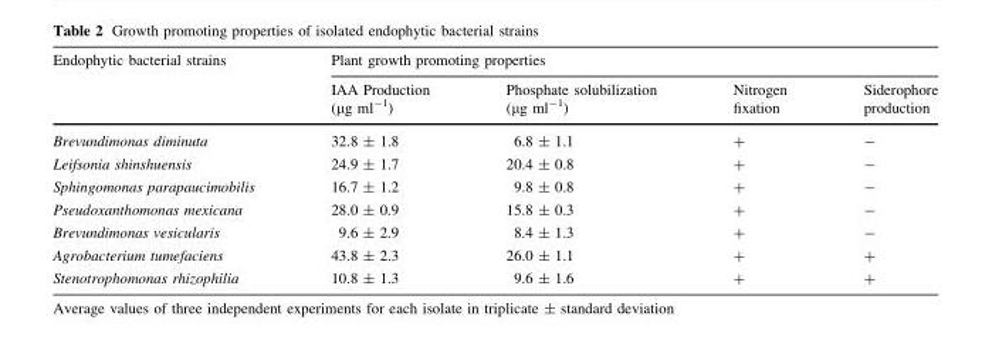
<table><thead><tr><td rowspan="2">Endophytic bacterial strains</td><td colspan="4">Plant growth promoting properties</td></tr><tr><td>IAA Production (µg ml<sup>-1</sup>)</td><td>Phosphate solubilization (µg ml<sup>-1</sup>)</td><td>Nitrogen fixation</td><td>Siderophore production</td></tr></thead><tbody><tr><td>Brevundimonas diminuta</td><td>32.8 ± 1.8</td><td>6.8 ± 1.1</td><td>+</td><td>-</td></tr><tr><td>Leifsonia shinshuensis</td><td>24.9 ± 1.7</td><td>20.4 ± 0.8</td><td>+</td><td>-</td></tr><tr><td>Sphingomonas parapaucimobilis</td><td>16.7 ± 1.2</td><td>9.8 ± 0.8</td><td>+</td><td>-</td></tr><tr><td>Pseudoxanthomonas mexicana</td><td>28.0 ± 0.9</td><td>15.8 ± 0.3</td><td>+</td><td>-</td></tr><tr><td>Brevundimonas vesicularis</td><td>9.6 ± 2.9</td><td>8.4 ± 1.3</td><td>+</td><td>-</td></tr><tr><td>Agrobacterium tumefaciens</td><td>43.8 ± 2.3</td><td>26.0 ± 1.1</td><td>+</td><td>+</td></tr><tr><td>Stenotrophomonas rhizophilia</td><td>10.8 ± 1.3</td><td>9.6 ± 1.6</td><td>+</td><td>+</td></tr></tbody></table>